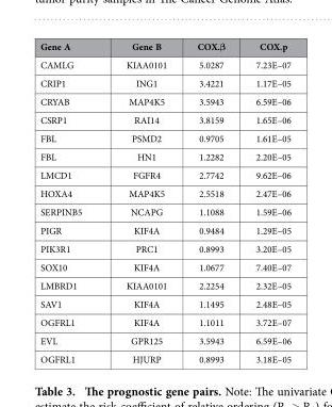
<table><thead><tr><td>Gene A</td><td>Gene B</td><td>COX.β</td><td>COX.p</td></tr></thead><tbody><tr><td>CAMLG</td><td>KIAA0101</td><td>5.0287</td><td>7.23E–07</td></tr><tr><td>CRIP1</td><td>ING1</td><td>3.4221</td><td>1.17E–05</td></tr><tr><td>CRYAB</td><td>MAP4K5</td><td>3.5943</td><td>6.59E–06</td></tr><tr><td>CSRP1</td><td>RAI14</td><td>3.8159</td><td>1.65E–06</td></tr><tr><td>FBL</td><td>PSMD2</td><td>0.9705</td><td>1.61E–05</td></tr><tr><td>FBL</td><td>HN1</td><td>1.2282</td><td>2.20E–05</td></tr><tr><td>LMCD1</td><td>FGFR4</td><td>2.7742</td><td>9.62E–06</td></tr><tr><td>HOXA4</td><td>MAP4K5</td><td>2.5518</td><td>2.47E–06</td></tr><tr><td>SERPINB5</td><td>NCAPG</td><td>1.1088</td><td>1.59E–06</td></tr><tr><td>PIGR</td><td>KIF4A</td><td>0.9484</td><td>1.29E–05</td></tr><tr><td>PIK3R1</td><td>PRC1</td><td>0.8993</td><td>3.20E–05</td></tr><tr><td>SOX10</td><td>KIF4A</td><td>1.0677</td><td>7.40E–07</td></tr><tr><td>LMBRD1</td><td>KIAA0101</td><td>2.2254</td><td>2.32E–05</td></tr><tr><td>SAV1</td><td>KIF4A</td><td>1.1495</td><td>2.48E–05</td></tr><tr><td>OGFRL1</td><td>KIF4A</td><td>1.1011</td><td>3.72E–07</td></tr><tr><td>EVL</td><td>GPR125</td><td>3.5943</td><td>6.59E–06</td></tr><tr><td>OGFRL1</td><td>HJURP</td><td>0.8993</td><td>3.18E–05</td></tr></tbody></table>